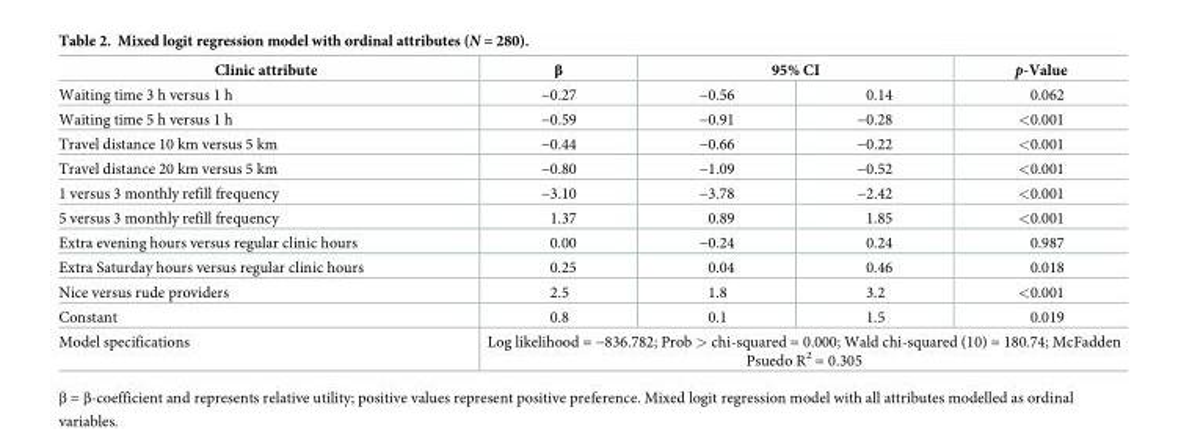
<table><thead><tr><td rowspan="2">Clinic attribute Waiting time 3 h versus 1 h</td><td rowspan="2">β −0.27</td><td colspan="2">95% CI</td><td rowspan="2">p-Value 0.062</td></tr><tr><td>−0.56</td><td>0.14</td></tr></thead><tbody><tr><td>Waiting time 5 h versus 1 h</td><td>−0.59</td><td>−0.91</td><td>−0.28</td><td>&lt;0.001</td></tr><tr><td>Travel distance 10 km versus 5 km</td><td>−0.44</td><td>−0.66</td><td>−0.22</td><td>&lt;0.001</td></tr><tr><td>Travel distance 20 km versus 5 km</td><td>−0.80</td><td>−1.09</td><td>−0.52</td><td>&lt;0.001</td></tr><tr><td>1 versus 3 monthly refill frequency</td><td>−3.10</td><td>−3.78</td><td>−2.42</td><td>&lt;0.001</td></tr><tr><td>5 versus 3 monthly refill frequency</td><td>1.37</td><td>0.89</td><td>1.85</td><td>&lt;0.001</td></tr><tr><td>Extra evening hours versus regular clinic hours</td><td>0.00</td><td>−0.24</td><td>0.24</td><td>0.987</td></tr><tr><td>Extra Saturday hours versus regular clinic hours</td><td>0.25</td><td>0.04</td><td>0.46</td><td>0.018</td></tr><tr><td>Nice versus rude providers</td><td>2.5</td><td>1.8</td><td>3.2</td><td>&lt;0.001</td></tr><tr><td>Constant</td><td>0.8</td><td>0.1</td><td>1.5</td><td>0.019</td></tr><tr><td>Model specifications</td><td colspan="4">Log likelihood = −836.782; Prob &gt; chi-squared = 0.000; Wald chi-squared (10) = 180.74; McFadden Psuedo R<sup>2</sup> = 0.305</td></tr></tbody></table>